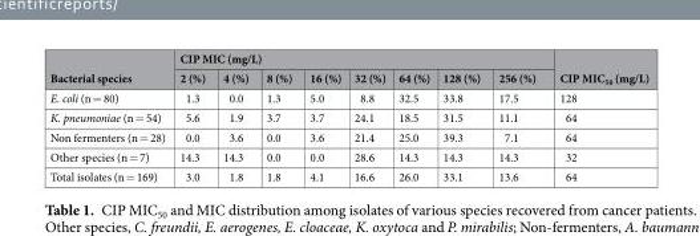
<table><thead><tr><td rowspan="2">Bacterial species</td><td colspan="8">CIP MIC (mg/L)</td><td rowspan="2">CIP MIC<sub>50</sub> (mg/L)</td></tr><tr><td>2 (%)</td><td>4 (%)</td><td>8 (%)</td><td>16 (%)</td><td>32 (%)</td><td>64 (%)</td><td>128 (%)</td><td>256 (%)</td></tr></thead><tbody><tr><td>E. coli (n = 80)</td><td>1.3</td><td>0.0</td><td>1.3</td><td>5.0</td><td>8.8</td><td>32.5</td><td>33.8</td><td>17.5</td><td>128</td></tr><tr><td>K. pneumoniae (n = 54)</td><td>5.6</td><td>1.9</td><td>3.7</td><td>3.7</td><td>24.1</td><td>18.5</td><td>31.5</td><td>11.1</td><td>64</td></tr><tr><td>Non fermenters (n = 28)</td><td>0.0</td><td>3.6</td><td>0.0</td><td>3.6</td><td>21.4</td><td>25.0</td><td>39.3</td><td>7.1</td><td>64</td></tr><tr><td>Other species (n = 7)</td><td>14.3</td><td>14.3</td><td>0.0</td><td>0.0</td><td>28.6</td><td>14.3</td><td>14.3</td><td>14.3</td><td>32</td></tr><tr><td>Total isolates (n = 169)</td><td>3.0</td><td>1.8</td><td>1.8</td><td>4.1</td><td>16.6</td><td>26.0</td><td>33.1</td><td>13.6</td><td>64</td></tr></tbody></table>